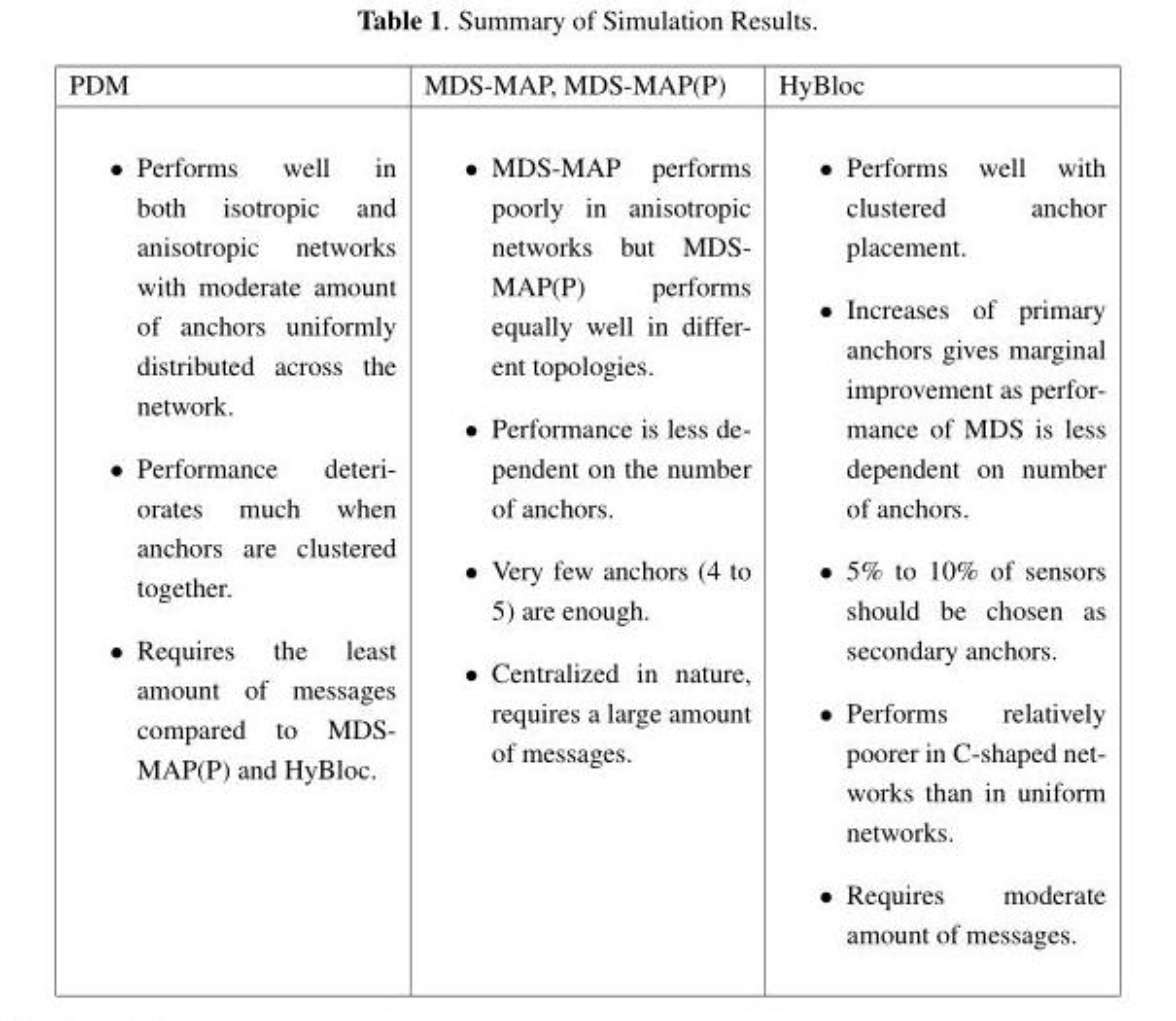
<table><thead><tr><td>PDM</td><td>MDS-MAP, MDS-MAP(P)</td><td>HyBloc</td></tr></thead><tbody><tr><td>• Performs well in both isotropic and anisotropic networks with moderate amount of anchors uniformly distributed across the network. • Performance deteri- orates much when anchors are clustered together. • Requires the least amount of messages compared to MDS- MAP(P) and HyBloc.</td><td>• MDS-MAP performs poorly in anisotropic networks but MDS- MAP(P) performs equally well in differ- ent topologies. • Performance is less de- pendent on the number of anchors. • Very few anchors (4 to 5) are enough. • Centralized in nature, requires a large amount of messages.</td><td>• Performs well with clustered anchor placement. • Increases of primary anchors gives marginal improvement as perfor- mance of MDS is less dependent on number of anchors. • 5% to 10% of sensors should be chosen as secondary anchors. • Performs relatively poorer in C-shaped net- works than in uniform networks. • Requires moderate amount of messages.</td></tr></tbody></table>